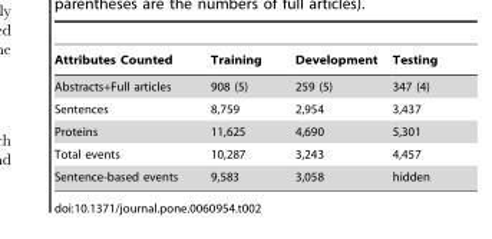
<table><thead><tr><td>Attributes Counted</td><td>Training</td><td>Development</td><td>Testing</td></tr></thead><tbody><tr><td>Abstracts+Full articles</td><td>908 (5)</td><td>259 (5)</td><td>347 (4)</td></tr><tr><td>Sentences</td><td>8,759</td><td>2,954</td><td>3,437</td></tr><tr><td>Proteins</td><td>11,625</td><td>4,690</td><td>5,301</td></tr><tr><td>Total events</td><td>10,287</td><td>3,243</td><td>4,457</td></tr><tr><td>Sentence-based events</td><td>9,583</td><td>3,058</td><td>hidden</td></tr></tbody></table>